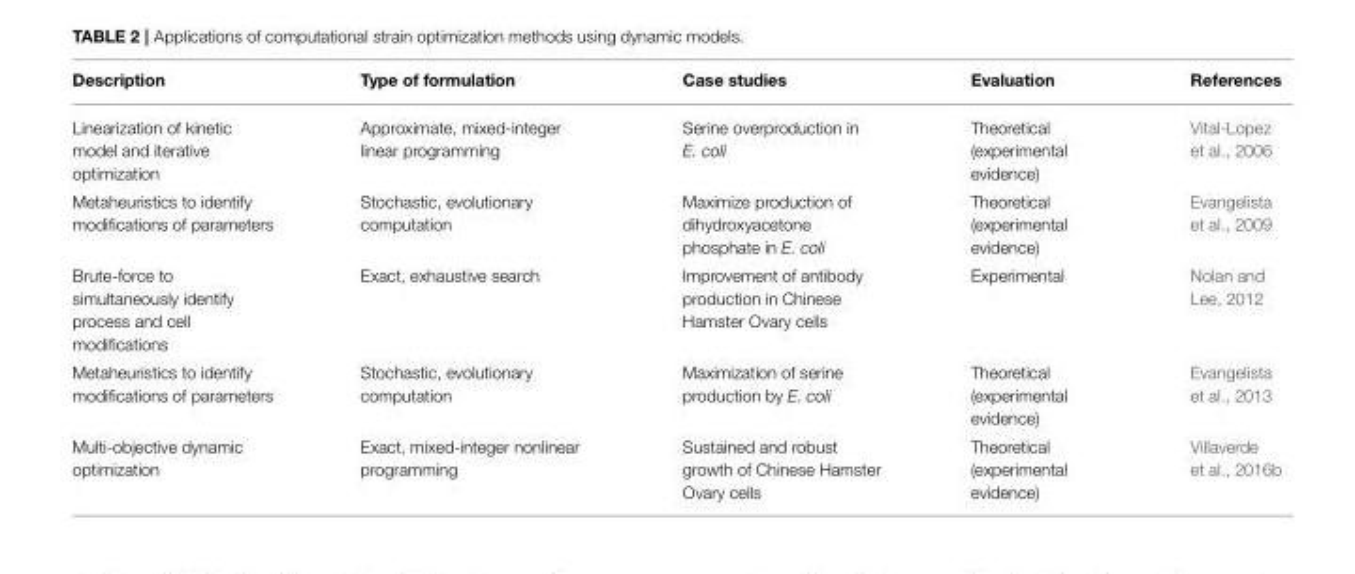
<table><thead><tr><td>Description</td><td>Type of formulation</td><td>Case studies</td><td>Evaluation</td><td>References</td></tr></thead><tbody><tr><td>Linearization of kinetic model and iterative optimization</td><td>Approximate, mixed-integer linear programming</td><td>Serine overproduction in E. coli</td><td>Theoretical (experimental evidence)</td><td>Vital-Lopez et al., 2006</td></tr><tr><td>Metaheuristics to identify modifications of parameters</td><td>Stochastic, evolutionary computation</td><td>Maximize production of dihydroxyacetone phosphate in E. coli</td><td>Theoretical (experimental evidence)</td><td>Evangelista et al., 2009</td></tr><tr><td>Brute-force to simultaneously identify process and cell modifications</td><td>Exact, exhaustive search</td><td>Improvement of antibody production in Chinese Hamster Ovary cells</td><td>Experimental</td><td>Nolan and Lee, 2012</td></tr><tr><td>Metaheuristics to identify modifications of parameters</td><td>Stochastic, evolutionary computation</td><td>Maximization of serine production by E. coli</td><td>Theoretical (experimental evidence)</td><td>Evangelista et al., 2013</td></tr><tr><td>Multi-objective dynamic optimization</td><td>Exact, mixed-integer nonlinear programming</td><td>Sustained and robust growth of Chinese Hamster Ovary cells</td><td>Theoretical (experimental evidence)</td><td>Villaverde et al., 2016b</td></tr></tbody></table>